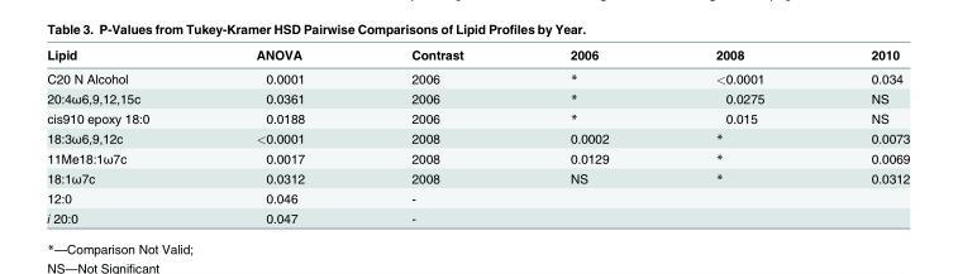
<table><thead><tr><td>Lipid</td><td>ANOVA</td><td>Contrast</td><td>2006</td><td>2008</td><td>2010</td></tr></thead><tbody><tr><td>C20 N Alcohol</td><td>0.0001</td><td>2006</td><td>*</td><td>&lt;0.0001</td><td>0.034</td></tr><tr><td>20:4ω6,9,12,15c</td><td>0.0361</td><td>2006</td><td>*</td><td>0.0275</td><td>NS</td></tr><tr><td>cis910 epoxy 18:0</td><td>0.0188</td><td>2006</td><td>*</td><td>0.015</td><td>NS</td></tr><tr><td>18:3ω6,9,12c</td><td>&lt;0.0001</td><td>2008</td><td>0.0002</td><td>*</td><td>0.0073</td></tr><tr><td>11Me18:1ω7c</td><td>0.0017</td><td>2008</td><td>0.0129</td><td>*</td><td>0.0069</td></tr><tr><td>18:1ω7c</td><td>0.0312</td><td>2008</td><td>NS</td><td>*</td><td>0.0312</td></tr><tr><td>12:0</td><td>0.046</td><td>-</td><td></td><td></td><td></td></tr><tr><td>i 20:0</td><td>0.047</td><td>-</td><td></td><td></td><td></td></tr></tbody></table>